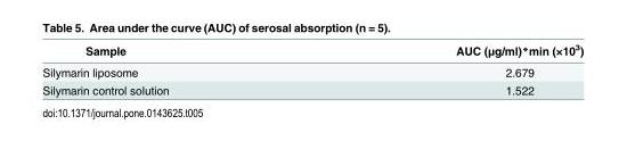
<table><thead><tr><td>Sample</td><td>AUC (μg/ml)*min (×10<sup>3</sup>)</td></tr></thead><tbody><tr><td>Silymarin liposome</td><td>2.679</td></tr><tr><td>Silymarin control solution</td><td>1.522</td></tr></tbody></table>